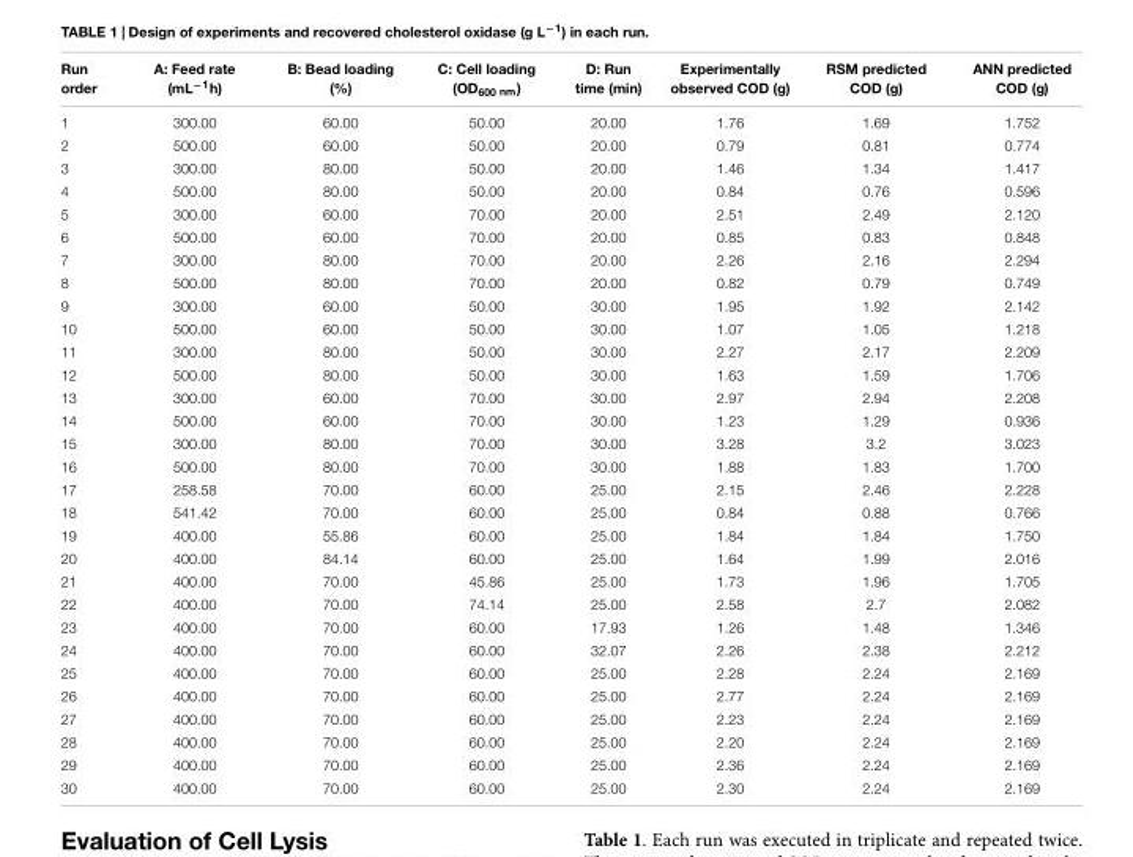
<table><thead><tr><td>Run order</td><td>A: Feed rate (mL<sup>−1</sup>h)</td><td>B: Bead loading (%)</td><td>C: Cell loading (OD<sub>600 nm</sub>)</td><td>D: Run time (min)</td><td>Experimentally observed COD (g)</td><td>RSM predicted COD (g)</td><td>ANN predicted COD (g)</td></tr></thead><tbody><tr><td>1</td><td>300.00</td><td>60.00</td><td>50.00</td><td>20.00</td><td>1.76</td><td>1.69</td><td>1.752</td></tr><tr><td>2</td><td>500.00</td><td>60.00</td><td>50.00</td><td>20.00</td><td>0.79</td><td>0.81</td><td>0.774</td></tr><tr><td>3</td><td>300.00</td><td>80.00</td><td>50.00</td><td>20.00</td><td>1.46</td><td>1.34</td><td>1.417</td></tr><tr><td>4</td><td>500.00</td><td>80.00</td><td>50.00</td><td>20.00</td><td>0.84</td><td>0.76</td><td>0.596</td></tr><tr><td>5</td><td>300.00</td><td>60.00</td><td>70.00</td><td>20.00</td><td>2.51</td><td>2.49</td><td>2.120</td></tr><tr><td>6</td><td>500.00</td><td>60.00</td><td>70.00</td><td>20.00</td><td>0.85</td><td>0.83</td><td>0.848</td></tr><tr><td>7</td><td>300.00</td><td>80.00</td><td>70.00</td><td>20.00</td><td>2.26</td><td>2.16</td><td>2.294</td></tr><tr><td>8</td><td>500.00</td><td>80.00</td><td>70.00</td><td>20.00</td><td>0.82</td><td>0.79</td><td>0.749</td></tr><tr><td>9</td><td>300.00</td><td>60.00</td><td>50.00</td><td>30.00</td><td>1.95</td><td>1.92</td><td>2.142</td></tr><tr><td>10</td><td>500.00</td><td>60.00</td><td>50.00</td><td>30.00</td><td>1.07</td><td>1.05</td><td>1.218</td></tr><tr><td>11</td><td>300.00</td><td>80.00</td><td>50.00</td><td>30.00</td><td>2.27</td><td>2.17</td><td>2.209</td></tr><tr><td>12</td><td>500.00</td><td>80.00</td><td>50.00</td><td>30.00</td><td>1.63</td><td>1.59</td><td>1.706</td></tr><tr><td>13</td><td>300.00</td><td>60.00</td><td>70.00</td><td>30.00</td><td>2.97</td><td>2.94</td><td>2.208</td></tr><tr><td>14</td><td>500.00</td><td>60.00</td><td>70.00</td><td>30.00</td><td>1.23</td><td>1.29</td><td>0.936</td></tr><tr><td>15</td><td>300.00</td><td>80.00</td><td>70.00</td><td>30.00</td><td>3.28</td><td>3.2</td><td>3.023</td></tr><tr><td>16</td><td>500.00</td><td>80.00</td><td>70.00</td><td>30.00</td><td>1.88</td><td>1.83</td><td>1.700</td></tr><tr><td>17</td><td>258.58</td><td>70.00</td><td>60.00</td><td>25.00</td><td>2.15</td><td>2.46</td><td>2.228</td></tr><tr><td>18</td><td>541.42</td><td>70.00</td><td>60.00</td><td>25.00</td><td>0.84</td><td>0.88</td><td>0.766</td></tr><tr><td>19</td><td>400.00</td><td>55.86</td><td>60.00</td><td>25.00</td><td>1.84</td><td>1.84</td><td>1.750</td></tr><tr><td>20</td><td>400.00</td><td>84.14</td><td>60.00</td><td>25.00</td><td>1.64</td><td>1.99</td><td>2.016</td></tr><tr><td>21</td><td>400.00</td><td>70.00</td><td>45.86</td><td>25.00</td><td>1.73</td><td>1.96</td><td>1.705</td></tr><tr><td>22</td><td>400.00</td><td>70.00</td><td>74.14</td><td>25.00</td><td>2.58</td><td>2.7</td><td>2.082</td></tr><tr><td>23</td><td>400.00</td><td>70.00</td><td>60.00</td><td>17.93</td><td>1.26</td><td>1.48</td><td>1.346</td></tr><tr><td>24</td><td>400.00</td><td>70.00</td><td>60.00</td><td>32.07</td><td>2.26</td><td>2.38</td><td>2.212</td></tr><tr><td>25</td><td>400.00</td><td>70.00</td><td>60.00</td><td>25.00</td><td>2.28</td><td>2.24</td><td>2.169</td></tr><tr><td>26</td><td>400.00</td><td>70.00</td><td>60.00</td><td>25.00</td><td>2.77</td><td>2.24</td><td>2.169</td></tr><tr><td>27</td><td>400.00</td><td>70.00</td><td>60.00</td><td>25.00</td><td>2.23</td><td>2.24</td><td>2.169</td></tr><tr><td>28</td><td>400.00</td><td>70.00</td><td>60.00</td><td>25.00</td><td>2.20</td><td>2.24</td><td>2.169</td></tr><tr><td>29</td><td>400.00</td><td>70.00</td><td>60.00</td><td>25.00</td><td>2.36</td><td>2.24</td><td>2.169</td></tr><tr><td>30</td><td>400.00</td><td>70.00</td><td>60.00</td><td>25.00</td><td>2.30</td><td>2.24</td><td>2.169</td></tr></tbody></table>